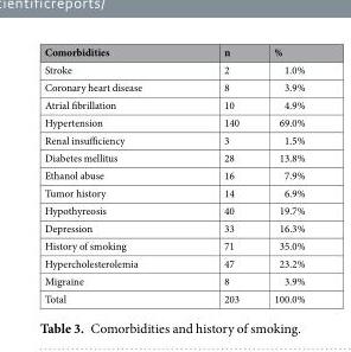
<table><thead><tr><td>Comorbidities</td><td>n</td><td>%</td></tr></thead><tbody><tr><td>Stroke</td><td>2</td><td>1.0%</td></tr><tr><td>Coronary heart disease</td><td>8</td><td>3.9%</td></tr><tr><td>Atrial fibrillation</td><td>10</td><td>4.9%</td></tr><tr><td>Hypertension</td><td>140</td><td>69.0%</td></tr><tr><td>Renal insufficiency</td><td>3</td><td>1.5%</td></tr><tr><td>Diabetes mellitus</td><td>28</td><td>13.8%</td></tr><tr><td>Ethanol abuse</td><td>16</td><td>7.9%</td></tr><tr><td>Tumor history</td><td>14</td><td>6.9%</td></tr><tr><td>Hypothyreosis</td><td>40</td><td>19.7%</td></tr><tr><td>Depression</td><td>33</td><td>16.3%</td></tr><tr><td>History of smoking</td><td>71</td><td>35.0%</td></tr><tr><td>Hypercholesterolemia</td><td>47</td><td>23.2%</td></tr><tr><td>Migraine</td><td>8</td><td>3.9%</td></tr><tr><td>Total</td><td>203</td><td>100.0%</td></tr></tbody></table>